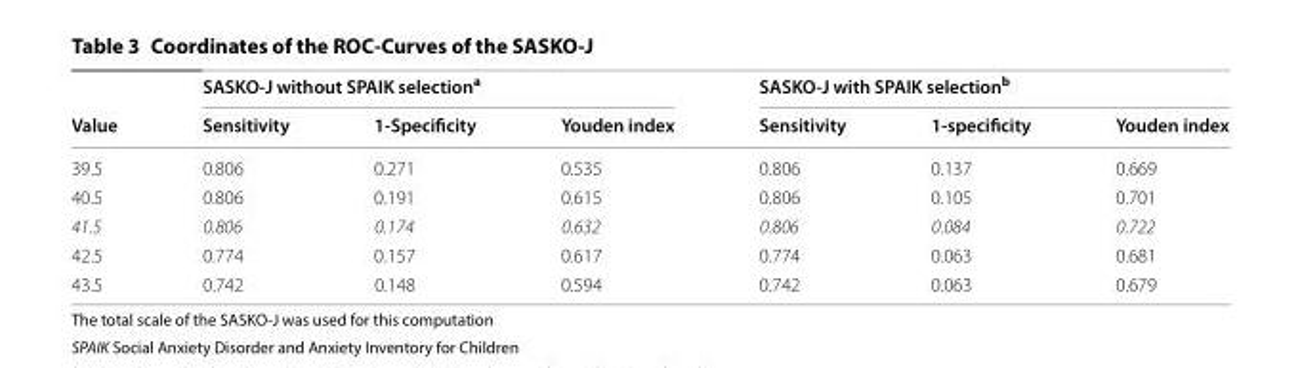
<table><thead><tr><td rowspan="2">Value</td><td colspan="3">SASKO‑J without SPAIK selection<sup>a</sup></td><td colspan="3">SASKO‑J with SPAIK selection<sup>b</sup></td></tr><tr><td>Sensitivity</td><td>1‑Specificity</td><td>Youden index</td><td>Sensitivity</td><td>1‑specificity</td><td>Youden index</td></tr></thead><tbody><tr><td>39.5</td><td>0.806</td><td>0.271</td><td>0.535</td><td>0.806</td><td>0.137</td><td>0.669</td></tr><tr><td>40.5</td><td>0.806</td><td>0.191</td><td>0.615</td><td>0.806</td><td>0.105</td><td>0.701</td></tr><tr><td>41.5</td><td>0.806</td><td>0.174</td><td>0.632</td><td>0.806</td><td>0.084</td><td>0.722</td></tr><tr><td>42.5</td><td>0.774</td><td>0.157</td><td>0.617</td><td>0.774</td><td>0.063</td><td>0.681</td></tr><tr><td>43.5</td><td>0.742</td><td>0.148</td><td>0.594</td><td>0.742</td><td>0.063</td><td>0.679</td></tr></tbody></table>